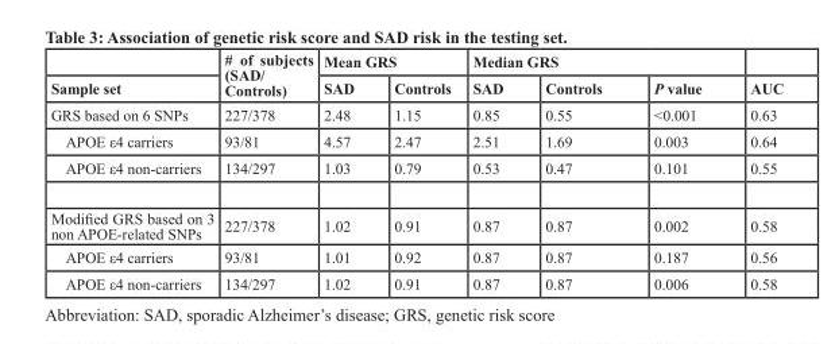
<table><thead><tr><td rowspan="2">Sample set</td><td rowspan="2"># of subjects (SAD/ Controls)</td><td colspan="2">Mean GRS</td><td colspan="3">Median GRS</td><td rowspan="2">AUC</td></tr><tr><td>SAD</td><td>Controls</td><td>SAD</td><td>Controls</td><td>P value</td></tr></thead><tbody><tr><td>GRS based on 6 SNPs</td><td>227/378</td><td>2.48</td><td>1.15</td><td>0.85</td><td>0.55</td><td>&lt;0.001</td><td>0.63</td></tr><tr><td>APOE ε4 carriers</td><td>93/81</td><td>4.57</td><td>2.47</td><td>2.51</td><td>1.69</td><td>0.003</td><td>0.64</td></tr><tr><td>APOE ε4 non-carriers</td><td>134/297</td><td>1.03</td><td>0.79</td><td>0.53</td><td>0.47</td><td>0.101</td><td>0.55</td></tr><tr><td>Modified GRS based on 3 non APOE-related SNPs</td><td>227/378</td><td>1.02</td><td>0.91</td><td>0.87</td><td>0.87</td><td>0.002</td><td>0.58</td></tr><tr><td>APOE ε4 carriers</td><td>93/81</td><td>1.01</td><td>0.92</td><td>0.87</td><td>0.87</td><td>0.187</td><td>0.56</td></tr><tr><td>APOE ε4 non-carriers</td><td>134/297</td><td>1.02</td><td>0.91</td><td>0.87</td><td>0.87</td><td>0.006</td><td>0.58</td></tr></tbody></table>